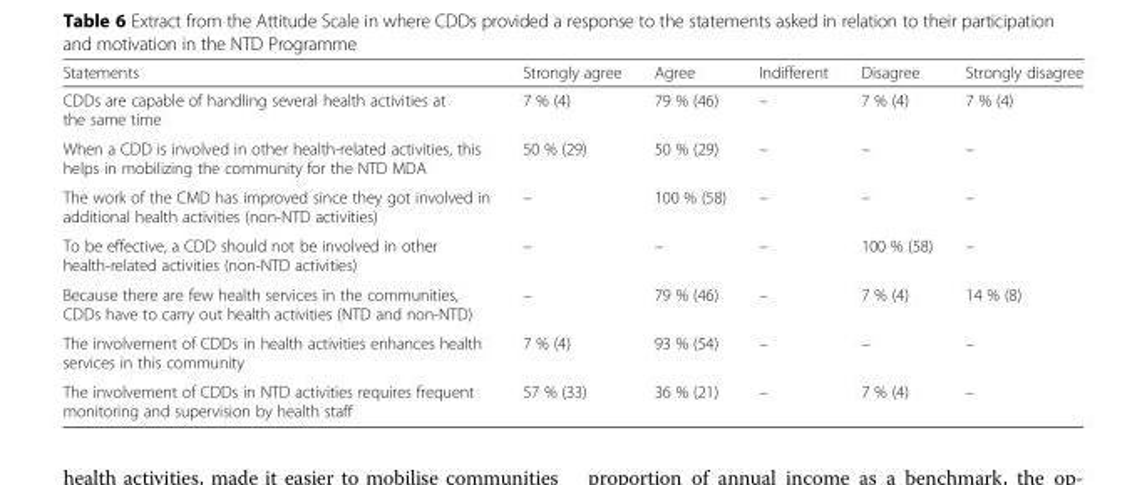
<table><thead><tr><td>Statements</td><td>Strongly agree</td><td>Agree</td><td>Indifferent</td><td>Disagree</td><td>Strongly disagree</td></tr></thead><tbody><tr><td>CDDs are capable of handling several health activities at the same time</td><td>7 % (4)</td><td>79 % (46)</td><td>–</td><td>7 % (4)</td><td>7 % (4)</td></tr><tr><td>When a CDD is involved in other health-related activities, this helps in mobilizing the community for the NTD MDA</td><td>50 % (29)</td><td>50 % (29)</td><td>–</td><td>–</td><td>–</td></tr><tr><td>The work of the CMD has improved since they got involved in additional health activities (non-NTD activities)</td><td>–</td><td>100 % (58)</td><td>–</td><td>–</td><td>–</td></tr><tr><td>To be effective, a CDD should not be involved in other health-related activities (non-NTD activities)</td><td>–</td><td>–</td><td>–</td><td>100 % (58)</td><td>–</td></tr><tr><td>Because there are few health services in the communities, CDDs have to carry out health activities (NTD and non-NTD)</td><td>–</td><td>79 % (46)</td><td>–</td><td>7 % (4)</td><td>14 % (8)</td></tr><tr><td>The involvement of CDDs in health activities enhances health services in this community</td><td>7 % (4)</td><td>93 % (54)</td><td>–</td><td>–</td><td>–</td></tr><tr><td>The involvement of CDDs in NTD activities requires frequent monitoring and supervision by health staff</td><td>57 % (33)</td><td>36 % (21)</td><td>–</td><td>7 % (4)</td><td>–</td></tr></tbody></table>